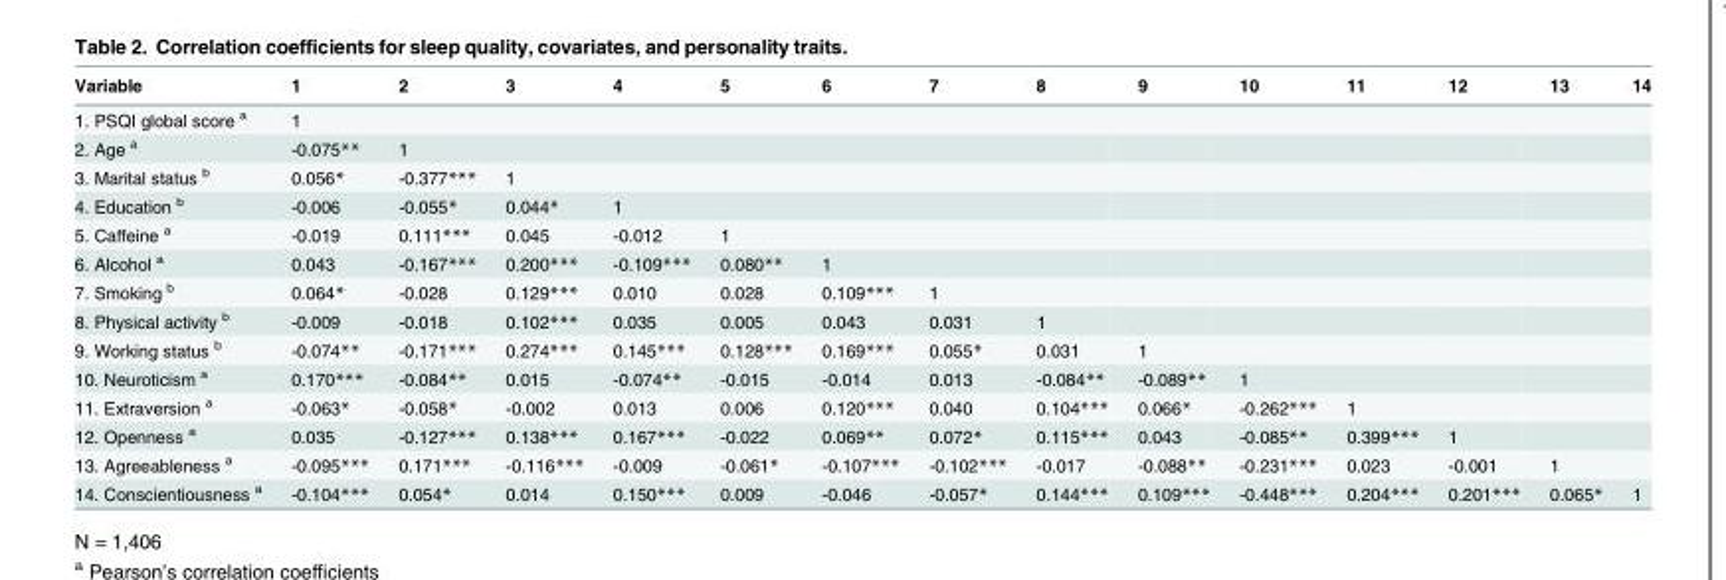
<table><thead><tr><td>Variable</td><td>1</td><td>2</td><td>3</td><td>4</td><td>5</td><td>6</td><td>7</td><td>8</td><td>9</td><td>10</td><td>11</td><td>12</td><td>13</td><td>14</td></tr></thead><tbody><tr><td>1. PSQI global score <sup>a</sup></td><td>1</td><td></td><td></td><td></td><td></td><td></td><td></td><td></td><td></td><td></td><td></td><td></td><td></td><td></td></tr><tr><td>2. Age <sup>a</sup></td><td>-0.075**</td><td>1</td><td></td><td></td><td></td><td></td><td></td><td></td><td></td><td></td><td></td><td></td><td></td><td></td></tr><tr><td>3. Marital status <sup>b</sup></td><td>0.056*</td><td>-0.377***</td><td>1</td><td></td><td></td><td></td><td></td><td></td><td></td><td></td><td></td><td></td><td></td><td></td></tr><tr><td>4. Education <sup>b</sup></td><td>-0.006</td><td>-0.055*</td><td>0.044*</td><td>1</td><td></td><td></td><td></td><td></td><td></td><td></td><td></td><td></td><td></td><td></td></tr><tr><td>5. Caffeine <sup>a</sup></td><td>-0.019</td><td>0.111***</td><td>0.045</td><td>-0.012</td><td>1</td><td></td><td></td><td></td><td></td><td></td><td></td><td></td><td></td><td></td></tr><tr><td>6. Alcohol <sup>a</sup></td><td>0.043</td><td>-0.167***</td><td>0.200***</td><td>-0.109***</td><td>0.080**</td><td>1</td><td></td><td></td><td></td><td></td><td></td><td></td><td></td><td></td></tr><tr><td>7. Smoking <sup>b</sup></td><td>0.064*</td><td>-0.028</td><td>0.129***</td><td>0.010</td><td>0.028</td><td>0.109***</td><td>1</td><td></td><td></td><td></td><td></td><td></td><td></td><td></td></tr><tr><td>8. Physical activity <sup>b</sup></td><td>-0.009</td><td>-0.018</td><td>0.102***</td><td>0.035</td><td>0.005</td><td>0.043</td><td>0.031</td><td>1</td><td></td><td></td><td></td><td></td><td></td><td></td></tr><tr><td>9. Working status <sup>b</sup></td><td>-0.074**</td><td>-0.171***</td><td>0.274***</td><td>0.145***</td><td>0.128***</td><td>0.169***</td><td>0.055*</td><td>0.031</td><td>1</td><td></td><td></td><td></td><td></td><td></td></tr><tr><td>10. Neuroticism <sup>a</sup></td><td>0.170***</td><td>-0.084**</td><td>0.015</td><td>-0.074**</td><td>-0.015</td><td>-0.014</td><td>0.013</td><td>-0.084**</td><td>-0.089**</td><td>1</td><td></td><td></td><td></td><td></td></tr><tr><td>11. Extraversion <sup>a</sup></td><td>-0.063*</td><td>-0.058*</td><td>-0.002</td><td>0.013</td><td>0.006</td><td>0.120***</td><td>0.040</td><td>0.104***</td><td>0.066*</td><td>-0.262***</td><td>1</td><td></td><td></td><td></td></tr><tr><td>12. Openness <sup>a</sup></td><td>0.035</td><td>-0.127***</td><td>0.138***</td><td>0.167***</td><td>-0.022</td><td>0.069**</td><td>0.072*</td><td>0.115***</td><td>0.043</td><td>-0.085**</td><td>0.399***</td><td>1</td><td></td><td></td></tr><tr><td>13. Agreeableness <sup>a</sup></td><td>-0.095***</td><td>0.171***</td><td>-0.116***</td><td>-0.009</td><td>-0.061*</td><td>-0.107***</td><td>-0.102***</td><td>-0.017</td><td>-0.088**</td><td>-0.231***</td><td>0.023</td><td>-0.001</td><td>1</td><td></td></tr><tr><td>14. Conscientiousness <sup>a</sup></td><td>-0.104***</td><td>0.054*</td><td>0.014</td><td>0.150***</td><td>0.009</td><td>-0.046</td><td>-0.057*</td><td>0.144***</td><td>0.109***</td><td>-0.448***</td><td>0.204***</td><td>0.201***</td><td>0.065*</td><td>1</td></tr></tbody></table>